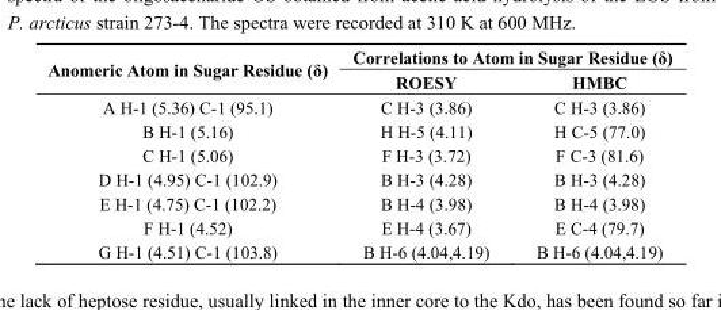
<table><thead><tr><td rowspan="2">Anomeric Atom in Sugar Residue (δ)</td><td colspan="2">Correlations to Atom in Sugar Residue (δ)</td></tr><tr><td>ROESY</td><td>HMBC</td></tr></thead><tbody><tr><td>A H-1 (5.36) C-1 (95.1)</td><td>C H-3 (3.86)</td><td>C H-3 (3.86)</td></tr><tr><td>B H-1 (5.16)</td><td>H H-5 (4.11)</td><td>H C-5 (77.0)</td></tr><tr><td>C H-1 (5.06)</td><td>F H-3 (3.72)</td><td>F C-3 (81.6)</td></tr><tr><td>D H-1 (4.95) C-1 (102.9)</td><td>B H-3 (4.28)</td><td>B H-3 (4.28)</td></tr><tr><td>E H-1 (4.75) C-1 (102.2)</td><td>B H-4 (3.98)</td><td>B H-4 (3.98)</td></tr><tr><td>F H-1 (4.52)</td><td>E H-4 (3.67)</td><td>E C-4 (79.7)</td></tr><tr><td>G H-1 (4.51) C-1 (103.8)</td><td>B H-6 (4.04,4.19)</td><td>B H-6 (4.04,4.19)</td></tr></tbody></table>